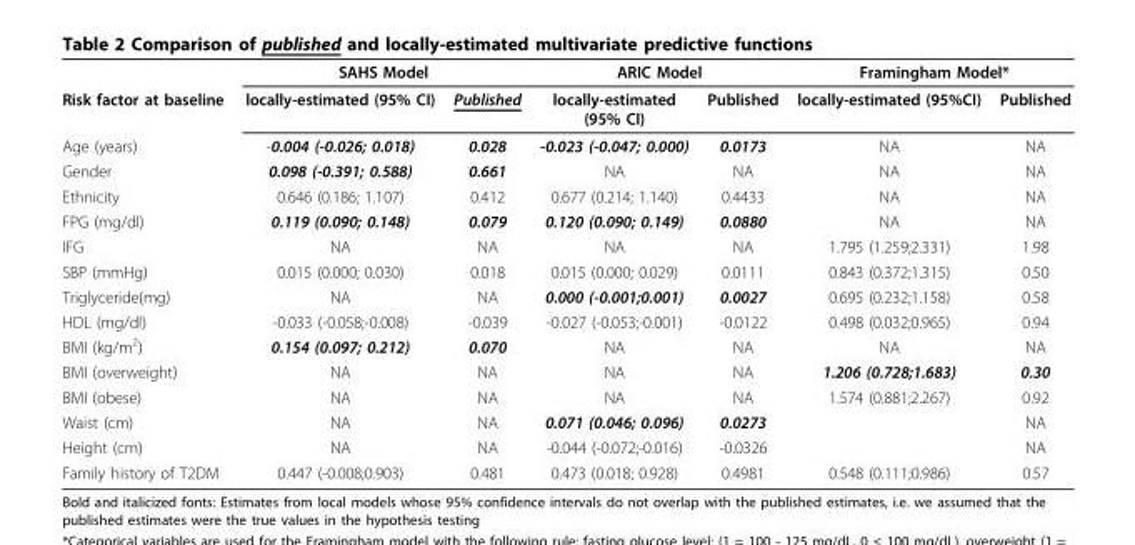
<table><thead><tr><td rowspan="2">Risk factor at baseline</td><td colspan="2">SAHS Model</td><td colspan="2">ARIC Model</td><td colspan="2">Framingham Model*</td></tr><tr><td>locally-estimated (95% CI)</td><td>Published</td><td>locally-estimated (95% CI)</td><td>Published</td><td>locally-estimated (95%CI)</td><td>Published</td></tr></thead><tbody><tr><td>Age (years)</td><td>-0.004 (-0.026; 0.018)</td><td>0.028</td><td>-0.023 (-0.047; 0.000)</td><td>0.0173</td><td>NA</td><td>NA</td></tr><tr><td>Gender</td><td>0.098 (-0.391; 0.588)</td><td>0.661</td><td>NA</td><td>NA</td><td>NA</td><td>NA</td></tr><tr><td>Ethnicity</td><td>0.646 (0.186; 1.107)</td><td>0.412</td><td>0.677 (0.214; 1.140)</td><td>0.4433</td><td>NA</td><td>NA</td></tr><tr><td>FPG (mg/dl)</td><td>0.119 (0.090; 0.148)</td><td>0.079</td><td>0.120 (0.090; 0.149)</td><td>0.0880</td><td>NA</td><td>NA</td></tr><tr><td>IFG</td><td>NA</td><td>NA</td><td>NA</td><td>NA</td><td>1.795 (1.259;2.331)</td><td>1.98</td></tr><tr><td>SBP (mmHg)</td><td>0.015 (0.000; 0.030)</td><td>0.018</td><td>0.015 (0.000; 0.029)</td><td>0.0111</td><td>0.843 (0.372;1.315)</td><td>0.50</td></tr><tr><td>Triglyceride(mg)</td><td>NA</td><td>NA</td><td>0.000 (-0.001;0.001)</td><td>0.0027</td><td>0.695 (0.232;1.158)</td><td>0.58</td></tr><tr><td>HDL (mg/dl)</td><td>-0.033 (-0.058;-0.008)</td><td>-0.039</td><td>-0.027 (-0.053;-0.001)</td><td>-0.0122</td><td>0.498 (0.032;0.965)</td><td>0.94</td></tr><tr><td>BMI (kg/m<sup>2</sup>)</td><td>0.154 (0.097; 0.212)</td><td>0.070</td><td>NA</td><td>NA</td><td>NA</td><td>NA</td></tr><tr><td>BMI (overweight)</td><td>NA</td><td>NA</td><td>NA</td><td>NA</td><td>1.206 (0.728;1.683)</td><td>0.30</td></tr><tr><td>BMI (obese)</td><td>NA</td><td>NA</td><td>NA</td><td>NA</td><td>1.574 (0.881;2.267)</td><td>0.92</td></tr><tr><td>Waist (cm)</td><td>NA</td><td>NA</td><td>0.071 (0.046; 0.096)</td><td>0.0273</td><td></td><td>NA</td></tr><tr><td>Height (cm)</td><td>NA</td><td>NA</td><td>-0.044 (-0.072;-0.016)</td><td>-0.0326</td><td></td><td>NA</td></tr><tr><td>Family history of T2DM</td><td>0.447 (-0.008;0.903)</td><td>0.481</td><td>0.473 (0.018; 0.928)</td><td>0.4981</td><td>0.548 (0.111;0.986)</td><td>0.57</td></tr></tbody></table>